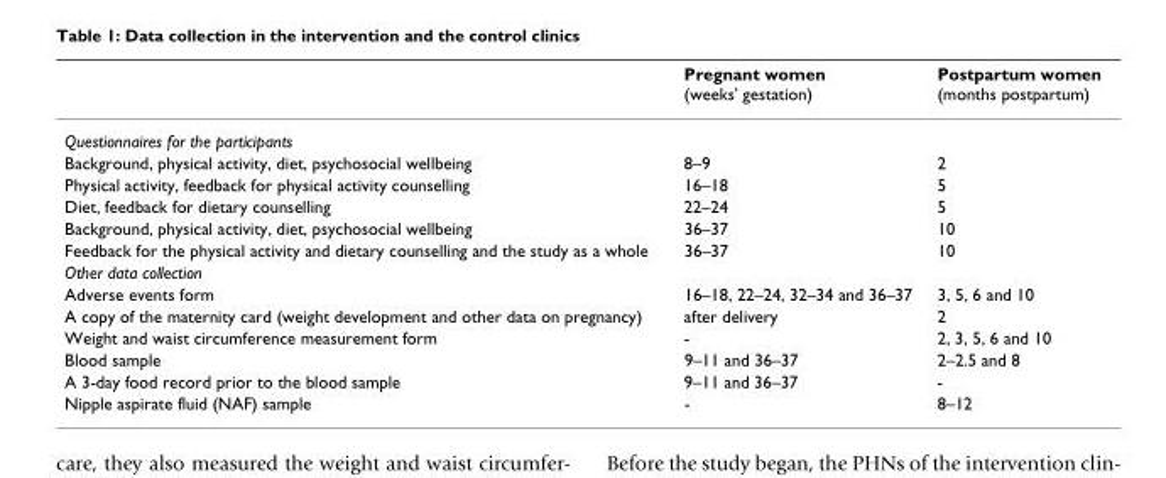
<table><thead><tr><td></td><td>Pregnant women (weeks&#x27; gestation)</td><td>Postpartum women (months postpartum)</td></tr></thead><tbody><tr><td colspan="3">Questionnaires for the participants</td></tr><tr><td>Background, physical activity, diet, psychosocial wellbeing</td><td>8–9</td><td>2</td></tr><tr><td>Physical activity, feedback for physical activity counselling</td><td>16–18</td><td>5</td></tr><tr><td>Diet, feedback for dietary counselling</td><td>22–24</td><td>5</td></tr><tr><td>Background, physical activity, diet, psychosocial wellbeing</td><td>36–37</td><td>10</td></tr><tr><td>Feedback for the physical activity and dietary counselling and the study as a whole</td><td>36–37</td><td>10</td></tr><tr><td colspan="3">Other data collection</td></tr><tr><td>Adverse events form</td><td>16–18, 22–24, 32–34 and 36–37</td><td>3, 5, 6 and 10</td></tr><tr><td>A copy of the maternity card (weight development and other data on pregnancy)</td><td>after delivery</td><td>2</td></tr><tr><td>Weight and waist circumference measurement form</td><td>-</td><td>2, 3, 5, 6 and 10</td></tr><tr><td>Blood sample</td><td>9–11 and 36–37</td><td>2–2.5 and 8</td></tr><tr><td>A 3-day food record prior to the blood sample</td><td>9–11 and 36–37</td><td>-</td></tr><tr><td>Nipple aspirate fluid (NAF) sample</td><td>-</td><td>8–12</td></tr></tbody></table>